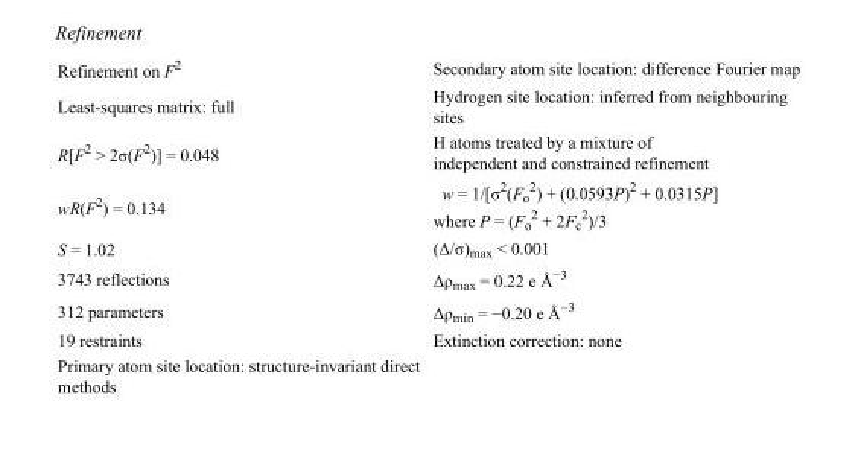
<table><tbody><tr><td>Refinement on F<sup>2</sup></td><td>Secondary atom site location: difference Fourier map</td></tr><tr><td>Least-squares matrix: full</td><td>Hydrogen site location: inferred from neighbouring sites</td></tr><tr><td>R[F<sup>2</sup> &gt; 2σ(F<sup>2</sup>)] = 0.048</td><td>H atoms treated by a mixture of independent and constrained refinement</td></tr><tr><td>wR(F<sup>2</sup>) = 0.134</td><td>w = 1/[σ<sup>2</sup>(F<sub>o</sub> <sup>2</sup>) + (0.0593P)<sup>2</sup> + 0.0315P] where P = (F<sub>o</sub> <sup>2</sup> + 2F<sub>c</sub> <sup>2</sup>)/3</td></tr><tr><td>S = 1.02</td><td>(Δ/σ)<sub>max</sub> &lt; 0.001</td></tr><tr><td>3743 reflections</td><td>Δρ<sub>max</sub> = 0.22 e Å<sup>−3</sup></td></tr><tr><td>312 parameters</td><td>Δρ<sub>min</sub> = −0.20 e Å<sup>−3</sup></td></tr><tr><td>19 restraints</td><td>Extinction correction: none</td></tr><tr><td>Primary atom site location: structure-invariant direct methods</td><td></td></tr></tbody></table>